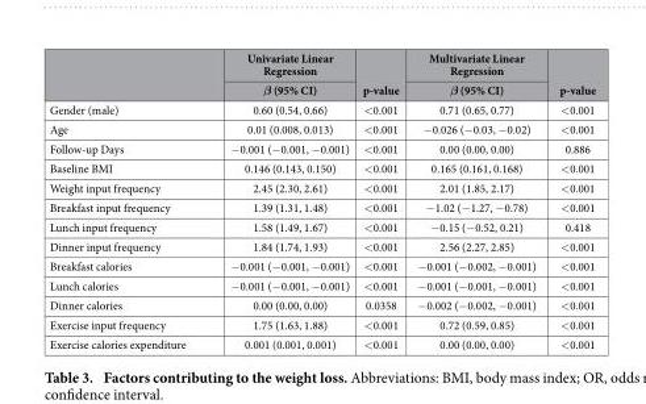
<table><thead><tr><td rowspan="2"></td><td rowspan="2">Univariate Linear Regression β (95% CI)</td><td rowspan="2">p-value</td><td rowspan="2">Multivariate Linear Regression β (95% CI)</td><td rowspan="2">p-value</td></tr><tr></tr></thead><tbody><tr><td>Gender (male)</td><td>0.60 (0.54, 0.66)</td><td>&lt; 0.001</td><td>0.71 (0.65, 0.77)</td><td>&lt; 0.001</td></tr><tr><td>Age</td><td>0.01 (0.008, 0.013)</td><td>&lt; 0.001</td><td>− 0.026 (− 0.03, − 0.02)</td><td>&lt; 0.001</td></tr><tr><td>Follow-up Days</td><td>− 0.001 (− 0.001, − 0.001)</td><td>&lt; 0.001</td><td>0.00 (0.00, 0.00)</td><td>0.886</td></tr><tr><td>Baseline BMI</td><td>0.146 (0.143, 0.150)</td><td>&lt; 0.001</td><td>0.165 (0.161, 0.168)</td><td>&lt; 0.001</td></tr><tr><td>Weight input frequency</td><td>2.45 (2.30, 2.61)</td><td>&lt; 0.001</td><td>2.01 (1.85, 2.17)</td><td>&lt; 0.001</td></tr><tr><td>Breakfast input frequency</td><td>1.39 (1.31, 1.48)</td><td>&lt; 0.001</td><td>− 1.02 (− 1.27, − 0.78)</td><td>&lt; 0.001</td></tr><tr><td>Lunch input frequency</td><td>1.58 (1.49, 1.67)</td><td>&lt; 0.001</td><td>− 0.15 (− 0.52, 0.21)</td><td>0.418</td></tr><tr><td>Dinner input frequency</td><td>1.84 (1.74, 1.93)</td><td>&lt; 0.001</td><td>2.56 (2.27, 2.85)</td><td>&lt; 0.001</td></tr><tr><td>Breakfast calories</td><td>− 0.001 (− 0.001, − 0.001)</td><td>&lt; 0.001</td><td>− 0.001 (− 0.002, − 0.001)</td><td>&lt; 0.001</td></tr><tr><td>Lunch calories</td><td>− 0.001 (− 0.001, − 0.001)</td><td>&lt; 0.001</td><td>− 0.001 (− 0.001, − 0.001)</td><td>&lt; 0.001</td></tr><tr><td>Dinner calories</td><td>0.00 (0.00, 0.00)</td><td>0.0358</td><td>− 0.002 (− 0.002, − 0.001)</td><td>&lt; 0.001</td></tr><tr><td>Exercise input frequency</td><td>1.75 (1.63, 1.88)</td><td>&lt; 0.001</td><td>0.72 (0.59, 0.85)</td><td>&lt; 0.001</td></tr><tr><td>Exercise calories expenditure</td><td>0.001 (0.001, 0.001)</td><td>&lt; 0.001</td><td>0.00 (0.00, 0.00)</td><td>&lt; 0.001</td></tr></tbody></table>